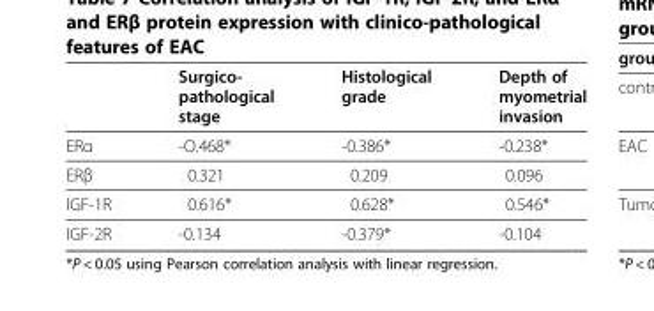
<table><thead><tr><td></td><td>Surgico- pathological stage</td><td>Histological grade</td><td>Depth of myometrial invasion</td></tr></thead><tbody><tr><td>ERα</td><td>-O.468*</td><td>-0.386*</td><td>-0.238*</td></tr><tr><td>ERβ</td><td>0.321</td><td>0.209</td><td>0.096</td></tr><tr><td>IGF-1R</td><td>0.616*</td><td>0.628*</td><td>0.546*</td></tr><tr><td>IGF-2R</td><td>-0.134</td><td>-0.379*</td><td>-0.104</td></tr></tbody></table>